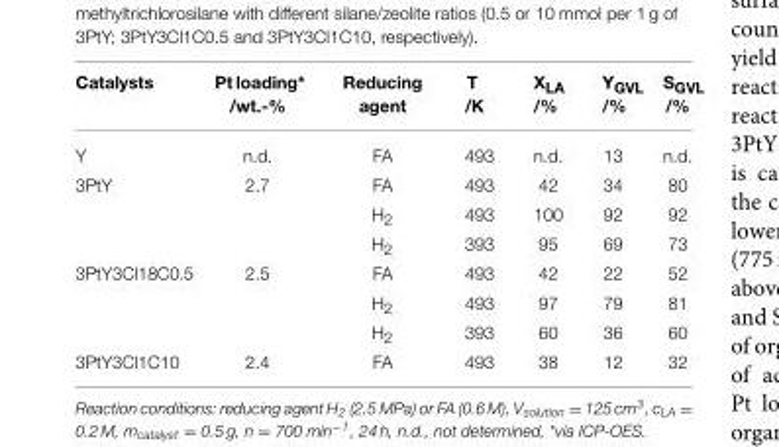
<table><thead><tr><td>Catalysts</td><td>Pt loading* /wt.-%</td><td>Reducing agent</td><td>T /K</td><td>X<sub>LA</sub> /%</td><td>Y<sub>GVL</sub> /%</td><td>S<sub>GVL</sub> /%</td></tr></thead><tbody><tr><td>Y</td><td>n.d.</td><td>FA</td><td>493</td><td>n.d.</td><td>13</td><td>n.d.</td></tr><tr><td rowspan="3">3PtY</td><td>2.7</td><td>FA</td><td>493</td><td>42</td><td>34</td><td>80</td></tr><tr><td></td><td>H<sub>2</sub></td><td>493</td><td>100</td><td>92</td><td>92</td></tr><tr><td></td><td>H<sub>2</sub></td><td>393</td><td>95</td><td>69</td><td>73</td></tr><tr><td rowspan="3">3PtY3Cl18C0.5</td><td>2.5</td><td>FA</td><td>493</td><td>42</td><td>22</td><td>52</td></tr><tr><td></td><td>H<sub>2</sub></td><td>493</td><td>97</td><td>79</td><td>81</td></tr><tr><td></td><td>H<sub>2</sub></td><td>393</td><td>60</td><td>36</td><td>60</td></tr><tr><td>3PtY3Cl1C10</td><td>2.4</td><td>FA</td><td>493</td><td>38</td><td>12</td><td>32</td></tr></tbody></table>